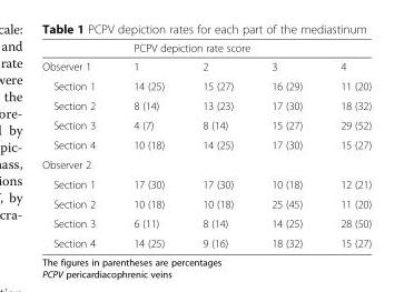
<table><thead><tr><td rowspan="2">Observer 1</td><td colspan="4">PCPV depiction rate score</td></tr><tr><td>1</td><td>2</td><td>3</td><td>4</td></tr></thead><tbody><tr><td>Section 1</td><td>14 (25)</td><td>15 (27)</td><td>16 (29)</td><td>11 (20)</td></tr><tr><td>Section 2</td><td>8 (14)</td><td>13 (23)</td><td>17 (30)</td><td>18 (32)</td></tr><tr><td>Section 3</td><td>4 (7)</td><td>8 (14)</td><td>15 (27)</td><td>29 (52)</td></tr><tr><td>Section 4</td><td>10 (18)</td><td>14 (25)</td><td>17 (30)</td><td>15 (27)</td></tr><tr><td colspan="5">Observer 2</td></tr><tr><td>Section 1</td><td>17 (30)</td><td>17 (30)</td><td>10 (18)</td><td>12 (21)</td></tr><tr><td>Section 2</td><td>10 (18)</td><td>10 (18)</td><td>25 (45)</td><td>11 (20)</td></tr><tr><td>Section 3</td><td>6 (11)</td><td>8 (14)</td><td>14 (25)</td><td>28 (50)</td></tr><tr><td>Section 4</td><td>14 (25)</td><td>9 (16)</td><td>18 (32)</td><td>15 (27)</td></tr></tbody></table>